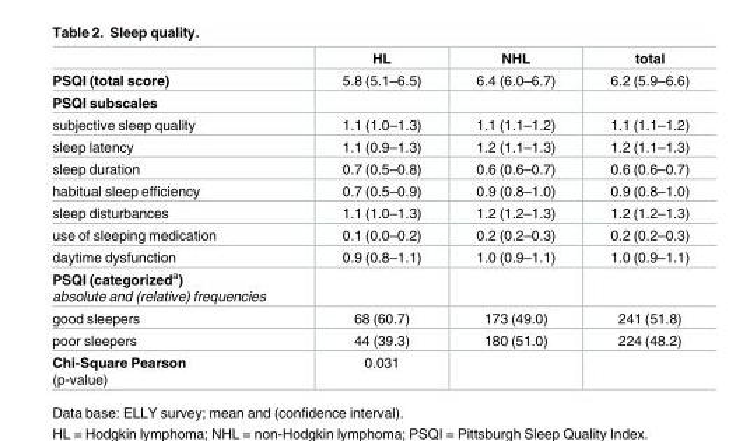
<table><thead><tr><td></td><td>HL</td><td>NHL</td><td>total</td></tr></thead><tbody><tr><td>PSQI (total score)</td><td>5.8 (5.1–6.5)</td><td>6.4 (6.0–6.7)</td><td>6.2 (5.9–6.6)</td></tr><tr><td colspan="4">PSQI subscales</td></tr><tr><td>subjective sleep quality</td><td>1.1 (1.0–1.3)</td><td>1.1 (1.1–1.2)</td><td>1.1 (1.1–1.2)</td></tr><tr><td>sleep latency</td><td>1.1 (0.9–1.3)</td><td>1.2 (1.1–1.3)</td><td>1.2 (1.1–1.3)</td></tr><tr><td>sleep duration</td><td>0.7 (0.5–0.8)</td><td>0.6 (0.6–0.7)</td><td>0.6 (0.6–0.7)</td></tr><tr><td>habitual sleep efficiency</td><td>0.7 (0.5–0.9)</td><td>0.9 (0.8–1.0)</td><td>0.9 (0.8–1.0)</td></tr><tr><td>sleep disturbances</td><td>1.1 (1.0–1.3)</td><td>1.2 (1.2–1.3)</td><td>1.2 (1.2–1.3)</td></tr><tr><td>use of sleeping medication</td><td>0.1 (0.0–0.2)</td><td>0.2 (0.2–0.3)</td><td>0.2 (0.2–0.3)</td></tr><tr><td>daytime dysfunction</td><td>0.9 (0.8–1.1)</td><td>1.0 (0.9–1.1)</td><td>1.0 (0.9–1.1)</td></tr><tr><td colspan="4">PSQI (categorized<sup>a</sup>) absolute and (relative) frequencies</td></tr><tr><td>good sleepers</td><td>68 (60.7)</td><td>173 (49.0)</td><td>241 (51.8)</td></tr><tr><td>poor sleepers</td><td>44 (39.3)</td><td>180 (51.0)</td><td>224 (48.2)</td></tr><tr><td>Chi-Square Pearson (p-value)</td><td>0.031</td><td></td><td></td></tr></tbody></table>